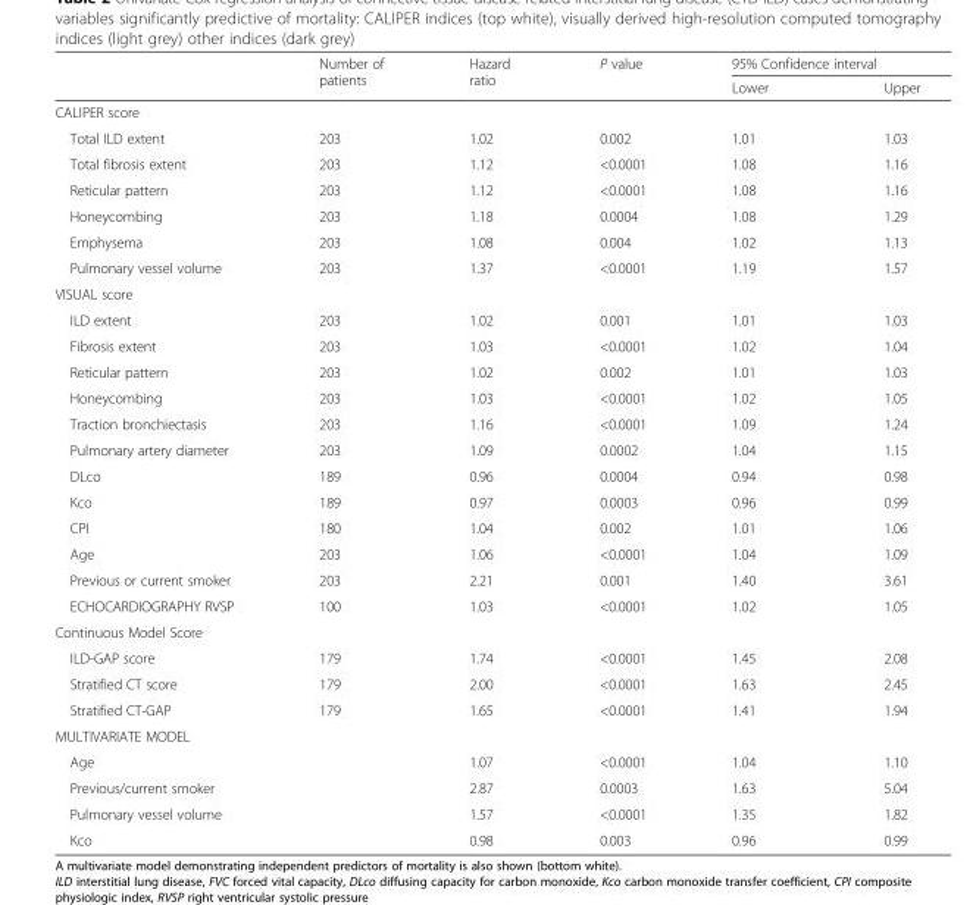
<table><thead><tr><td rowspan="2"></td><td rowspan="2">Number of patients</td><td rowspan="2">Hazard ratio</td><td rowspan="2">P value</td><td colspan="2">95% Confidence interval</td></tr><tr><td>Lower</td><td>Upper</td></tr></thead><tbody><tr><td colspan="6">CALIPER score</td></tr><tr><td>Total ILD extent</td><td>203</td><td>1.02</td><td>0.002</td><td>1.01</td><td>1.03</td></tr><tr><td>Total fibrosis extent</td><td>203</td><td>1.12</td><td>&lt;0.0001</td><td>1.08</td><td>1.16</td></tr><tr><td>Reticular pattern</td><td>203</td><td>1.12</td><td>&lt;0.0001</td><td>1.08</td><td>1.16</td></tr><tr><td>Honeycombing</td><td>203</td><td>1.18</td><td>0.0004</td><td>1.08</td><td>1.29</td></tr><tr><td>Emphysema</td><td>203</td><td>1.08</td><td>0.004</td><td>1.02</td><td>1.13</td></tr><tr><td>Pulmonary vessel volume</td><td>203</td><td>1.37</td><td>&lt;0.0001</td><td>1.19</td><td>1.57</td></tr><tr><td colspan="6">VISUAL score</td></tr><tr><td>ILD extent</td><td>203</td><td>1.02</td><td>0.001</td><td>1.01</td><td>1.03</td></tr><tr><td>Fibrosis extent</td><td>203</td><td>1.03</td><td>&lt;0.0001</td><td>1.02</td><td>1.04</td></tr><tr><td>Reticular pattern</td><td>203</td><td>1.02</td><td>0.002</td><td>1.01</td><td>1.03</td></tr><tr><td>Honeycombing</td><td>203</td><td>1.03</td><td>&lt;0.0001</td><td>1.02</td><td>1.05</td></tr><tr><td>Traction bronchiectasis</td><td>203</td><td>1.16</td><td>&lt;0.0001</td><td>1.09</td><td>1.24</td></tr><tr><td>Pulmonary artery diameter</td><td>203</td><td>1.09</td><td>0.0002</td><td>1.04</td><td>1.15</td></tr><tr><td>DLco</td><td>189</td><td>0.96</td><td>0.0004</td><td>0.94</td><td>0.98</td></tr><tr><td>Kco</td><td>189</td><td>0.97</td><td>0.0003</td><td>0.96</td><td>0.99</td></tr><tr><td>CPI</td><td>180</td><td>1.04</td><td>0.002</td><td>1.01</td><td>1.06</td></tr><tr><td>Age</td><td>203</td><td>1.06</td><td>&lt;0.0001</td><td>1.04</td><td>1.09</td></tr><tr><td>Previous or current smoker</td><td>203</td><td>2.21</td><td>0.001</td><td>1.40</td><td>3.61</td></tr><tr><td>ECHOCARDIOGRAPHY RVSP</td><td>100</td><td>1.03</td><td>&lt;0.0001</td><td>1.02</td><td>1.05</td></tr><tr><td colspan="6">Continuous Model Score</td></tr><tr><td>ILD-GAP score</td><td>179</td><td>1.74</td><td>&lt;0.0001</td><td>1.45</td><td>2.08</td></tr><tr><td>Stratified CT score</td><td>179</td><td>2.00</td><td>&lt;0.0001</td><td>1.63</td><td>2.45</td></tr><tr><td>Stratified CT-GAP</td><td>179</td><td>1.65</td><td>&lt;0.0001</td><td>1.41</td><td>1.94</td></tr><tr><td colspan="6">MULTIVARIATE MODEL</td></tr><tr><td>Age</td><td></td><td>1.07</td><td>&lt;0.0001</td><td>1.04</td><td>1.10</td></tr><tr><td>Previous/current smoker</td><td></td><td>2.87</td><td>0.0003</td><td>1.63</td><td>5.04</td></tr><tr><td>Pulmonary vessel volume</td><td></td><td>1.57</td><td>&lt;0.0001</td><td>1.35</td><td>1.82</td></tr><tr><td>Kco</td><td></td><td>0.98</td><td>0.003</td><td>0.96</td><td>0.99</td></tr></tbody></table>